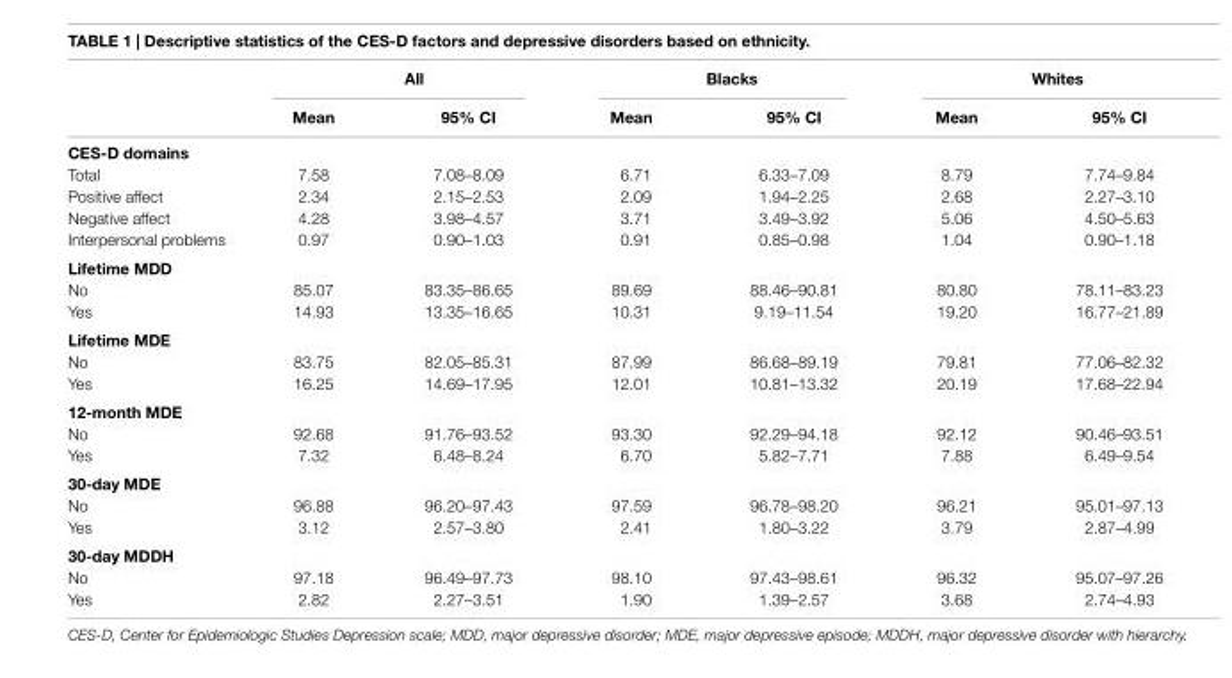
<table><thead><tr><td rowspan="2"></td><td colspan="2">all</td><td colspan="2">Blacks</td><td colspan="2">Whites</td></tr><tr><td>Mean</td><td>95% ci</td><td>Mean</td><td>95% ci</td><td>Mean</td><td>95% ci</td></tr></thead><tbody><tr><td colspan="7">ces-D domains</td></tr><tr><td>Total</td><td>7.58</td><td>7.08–8.09</td><td>6.71</td><td>6.33–7.09</td><td>8.79</td><td>7.74–9.84</td></tr><tr><td>Positive affect</td><td>2.34</td><td>2.15–2.53</td><td>2.09</td><td>1.94–2.25</td><td>2.68</td><td>2.27–3.10</td></tr><tr><td>Negative affect</td><td>4.28</td><td>3.98–4.57</td><td>3.71</td><td>3.49–3.92</td><td>5.06</td><td>4.50–5.63</td></tr><tr><td>Interpersonal problems</td><td>0.97</td><td>0.90–1.03</td><td>0.91</td><td>0.85–0.98</td><td>1.04</td><td>0.90–1.18</td></tr><tr><td colspan="7">lifetime MDD</td></tr><tr><td>No</td><td>85.07</td><td>83.35–86.65</td><td>89.69</td><td>88.46–90.81</td><td>80.80</td><td>78.11–83.23</td></tr><tr><td>Yes</td><td>14.93</td><td>13.35–16.65</td><td>10.31</td><td>9.19–11.54</td><td>19.20</td><td>16.77–21.89</td></tr><tr><td colspan="7">lifetime MDe</td></tr><tr><td>No</td><td>83.75</td><td>82.05–85.31</td><td>87.99</td><td>86.68–89.19</td><td>79.81</td><td>77.06–82.32</td></tr><tr><td>Yes</td><td>16.25</td><td>14.69–17.95</td><td>12.01</td><td>10.81–13.32</td><td>20.19</td><td>17.68–22.94</td></tr><tr><td colspan="7">12-month MDe</td></tr><tr><td>No</td><td>92.68</td><td>91.76–93.52</td><td>93.30</td><td>92.29–94.18</td><td>92.12</td><td>90.46–93.51</td></tr><tr><td>Yes</td><td>7.32</td><td>6.48–8.24</td><td>6.70</td><td>5.82–7.71</td><td>7.88</td><td>6.49–9.54</td></tr><tr><td colspan="7">30-day MDe</td></tr><tr><td>No</td><td>96.88</td><td>96.20–97.43</td><td>97.59</td><td>96.78–98.20</td><td>96.21</td><td>95.01–97.13</td></tr><tr><td>Yes</td><td>3.12</td><td>2.57–3.80</td><td>2.41</td><td>1.80–3.22</td><td>3.79</td><td>2.87–4.99</td></tr><tr><td colspan="7">30-day MDDh</td></tr><tr><td>No</td><td>97.18</td><td>96.49–97.73</td><td>98.10</td><td>97.43–98.61</td><td>96.32</td><td>95.07–97.26</td></tr><tr><td>Yes</td><td>2.82</td><td>2.27–3.51</td><td>1.90</td><td>1.39–2.57</td><td>3.68</td><td>2.74–4.93</td></tr></tbody></table>